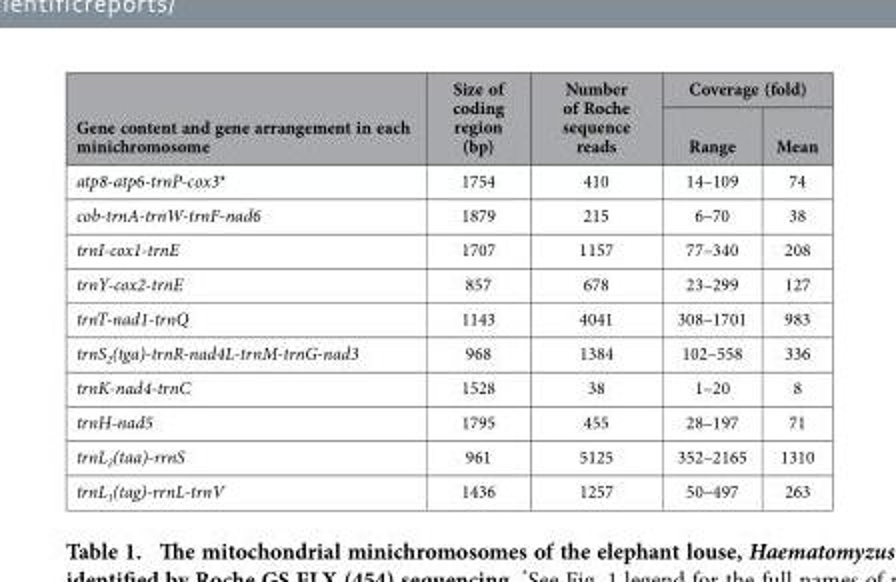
<table><thead><tr><td rowspan="2">Gene content and gene arrangement in each minichromosome</td><td rowspan="2">Size of coding region (bp)</td><td rowspan="2">Number of Roche sequence reads</td><td colspan="2">Coverage (fold)</td></tr><tr><td>Range</td><td>Mean</td></tr></thead><tbody><tr><td>atp8-atp6-trnP-cox3*</td><td>1754</td><td>410</td><td>14–109</td><td>74</td></tr><tr><td>cob-trnA-trnW-trnF-nad6</td><td>1879</td><td>215</td><td>6–70</td><td>38</td></tr><tr><td>trnI-cox1-trnE</td><td>1707</td><td>1157</td><td>77–340</td><td>208</td></tr><tr><td>trnY-cox2-trnE</td><td>857</td><td>678</td><td>23–299</td><td>127</td></tr><tr><td>trnT-nad1-trnQ</td><td>1143</td><td>4041</td><td>308–1701</td><td>983</td></tr><tr><td>trnS<sub>2</sub>(tga)-trnR-nad4L-trnM-trnG-nad3</td><td>968</td><td>1384</td><td>102–558</td><td>336</td></tr><tr><td>trnK-nad4-trnC</td><td>1528</td><td>38</td><td>1–20</td><td>8</td></tr><tr><td>trnH-nad5</td><td>1795</td><td>455</td><td>28–197</td><td>71</td></tr><tr><td>trnL<sub>2</sub>(taa)-rrnS</td><td>961</td><td>5125</td><td>352–2165</td><td>1310</td></tr><tr><td>trnL<sub>1</sub>(tag)-rrnL-trnV</td><td>1436</td><td>1257</td><td>50–497</td><td>263</td></tr></tbody></table>